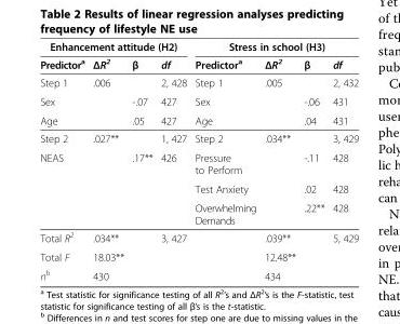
<table><thead><tr><td colspan="4">Enhancement attitude (H2)</td><td colspan="4">Stress in school (H3)</td></tr><tr><td>Predictor<sup>a</sup></td><td>ΔR<sup>2</sup></td><td>β</td><td>df</td><td>Predictor<sup>a</sup></td><td>ΔR<sup>2</sup></td><td>β</td><td>df</td></tr></thead><tbody><tr><td>Step 1</td><td>.006</td><td></td><td>2, 428</td><td>Step 1</td><td>.005</td><td></td><td>2, 432</td></tr><tr><td>Sex</td><td></td><td>-.07</td><td>427</td><td>Sex</td><td></td><td>-.06</td><td>431</td></tr><tr><td>Age</td><td></td><td>.05</td><td>427</td><td>Age</td><td></td><td>.04</td><td>431</td></tr><tr><td>Step 2</td><td>.027**</td><td></td><td>1, 427</td><td>Step 2</td><td>.034**</td><td></td><td>3, 429</td></tr><tr><td rowspan="3">NEAS</td><td></td><td>.17**</td><td>426</td><td>Pressure to Perform</td><td></td><td>-.11</td><td>428</td></tr><tr><td></td><td></td><td></td><td>Test Anxiety</td><td></td><td>.02</td><td>428</td></tr><tr><td></td><td></td><td></td><td>Overwhelming Demands</td><td></td><td>.22**</td><td>428</td></tr><tr><td>Total R<sup>2</sup></td><td>.034**</td><td></td><td rowspan="2">3, 427</td><td></td><td>.039**</td><td></td><td rowspan="2">5, 429</td></tr><tr><td>Total F</td><td>18.03**</td><td></td><td></td><td>12.48**</td><td></td></tr><tr><td>n<sup>b</sup></td><td>430</td><td></td><td></td><td></td><td>434</td><td></td><td></td></tr></tbody></table>